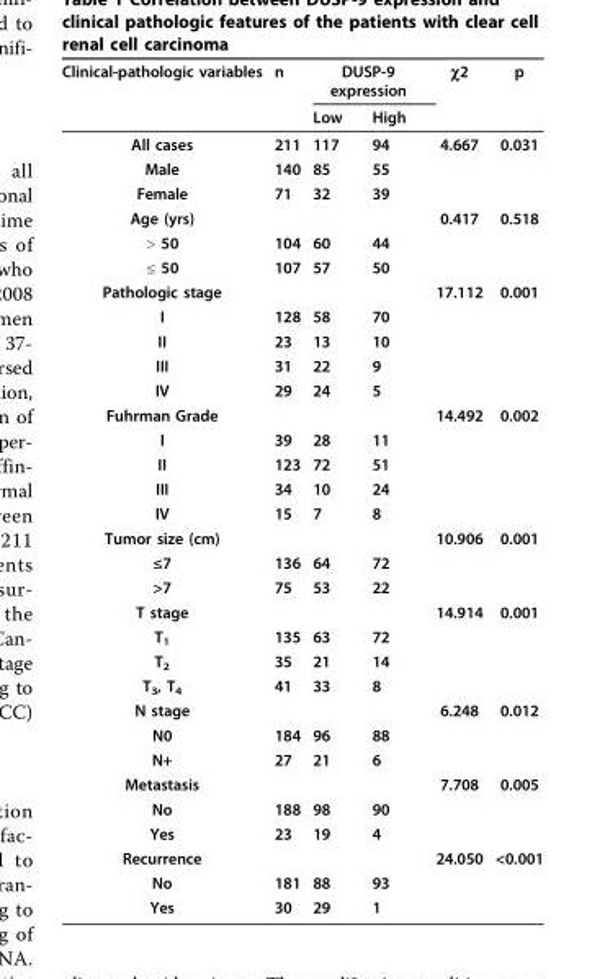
<table><thead><tr><td rowspan="2">Clinical-pathologic variables</td><td rowspan="2">n</td><td colspan="2">DUSP-9 expression</td><td rowspan="2">χ2</td><td rowspan="2">p</td></tr><tr><td>Low</td><td>High</td></tr></thead><tbody><tr><td>All cases</td><td>211</td><td>117</td><td>94</td><td>4.667</td><td>0.031</td></tr><tr><td>Male</td><td>140</td><td>85</td><td>55</td><td></td><td></td></tr><tr><td>Female</td><td>71</td><td>32</td><td>39</td><td></td><td></td></tr><tr><td>Age (yrs)</td><td></td><td></td><td></td><td>0.417</td><td>0.518</td></tr><tr><td>&gt; 50</td><td>104</td><td>60</td><td>44</td><td></td><td></td></tr><tr><td>≤ 50</td><td>107</td><td>57</td><td>50</td><td></td><td></td></tr><tr><td>Pathologic stage</td><td></td><td></td><td></td><td>17.112</td><td>0.001</td></tr><tr><td>I</td><td>128</td><td>58</td><td>70</td><td></td><td></td></tr><tr><td>II</td><td>23</td><td>13</td><td>10</td><td></td><td></td></tr><tr><td>III</td><td>31</td><td>22</td><td>9</td><td></td><td></td></tr><tr><td>IV</td><td>29</td><td>24</td><td>5</td><td></td><td></td></tr><tr><td>Fuhrman Grade</td><td></td><td></td><td></td><td>14.492</td><td>0.002</td></tr><tr><td>I</td><td>39</td><td>28</td><td>11</td><td></td><td></td></tr><tr><td>II</td><td>123</td><td>72</td><td>51</td><td></td><td></td></tr><tr><td>III</td><td>34</td><td>10</td><td>24</td><td></td><td></td></tr><tr><td>IV</td><td>15</td><td>7</td><td>8</td><td></td><td></td></tr><tr><td>Tumor size (cm)</td><td></td><td></td><td></td><td>10.906</td><td>0.001</td></tr><tr><td>≤7</td><td>136</td><td>64</td><td>72</td><td></td><td></td></tr><tr><td>&gt;7</td><td>75</td><td>53</td><td>22</td><td></td><td></td></tr><tr><td>T stage</td><td></td><td></td><td></td><td>14.914</td><td>0.001</td></tr><tr><td>T<sub>1</sub></td><td>135</td><td>63</td><td>72</td><td></td><td></td></tr><tr><td>T<sub>2</sub></td><td>35</td><td>21</td><td>14</td><td></td><td></td></tr><tr><td>T<sub>3</sub>, T<sub>4</sub></td><td>41</td><td>33</td><td>8</td><td></td><td></td></tr><tr><td>N stage</td><td></td><td></td><td></td><td>6.248</td><td>0.012</td></tr><tr><td>N0</td><td>184</td><td>96</td><td>88</td><td></td><td></td></tr><tr><td>N+</td><td>27</td><td>21</td><td>6</td><td></td><td></td></tr><tr><td>Metastasis</td><td></td><td></td><td></td><td>7.708</td><td>0.005</td></tr><tr><td>No</td><td>188</td><td>98</td><td>90</td><td></td><td></td></tr><tr><td>Yes</td><td>23</td><td>19</td><td>4</td><td></td><td></td></tr><tr><td>Recurrence</td><td></td><td></td><td></td><td>24.050</td><td>&lt;0.001</td></tr><tr><td>No</td><td>181</td><td>88</td><td>93</td><td></td><td></td></tr><tr><td>Yes</td><td>30</td><td>29</td><td>1</td><td></td><td></td></tr></tbody></table>